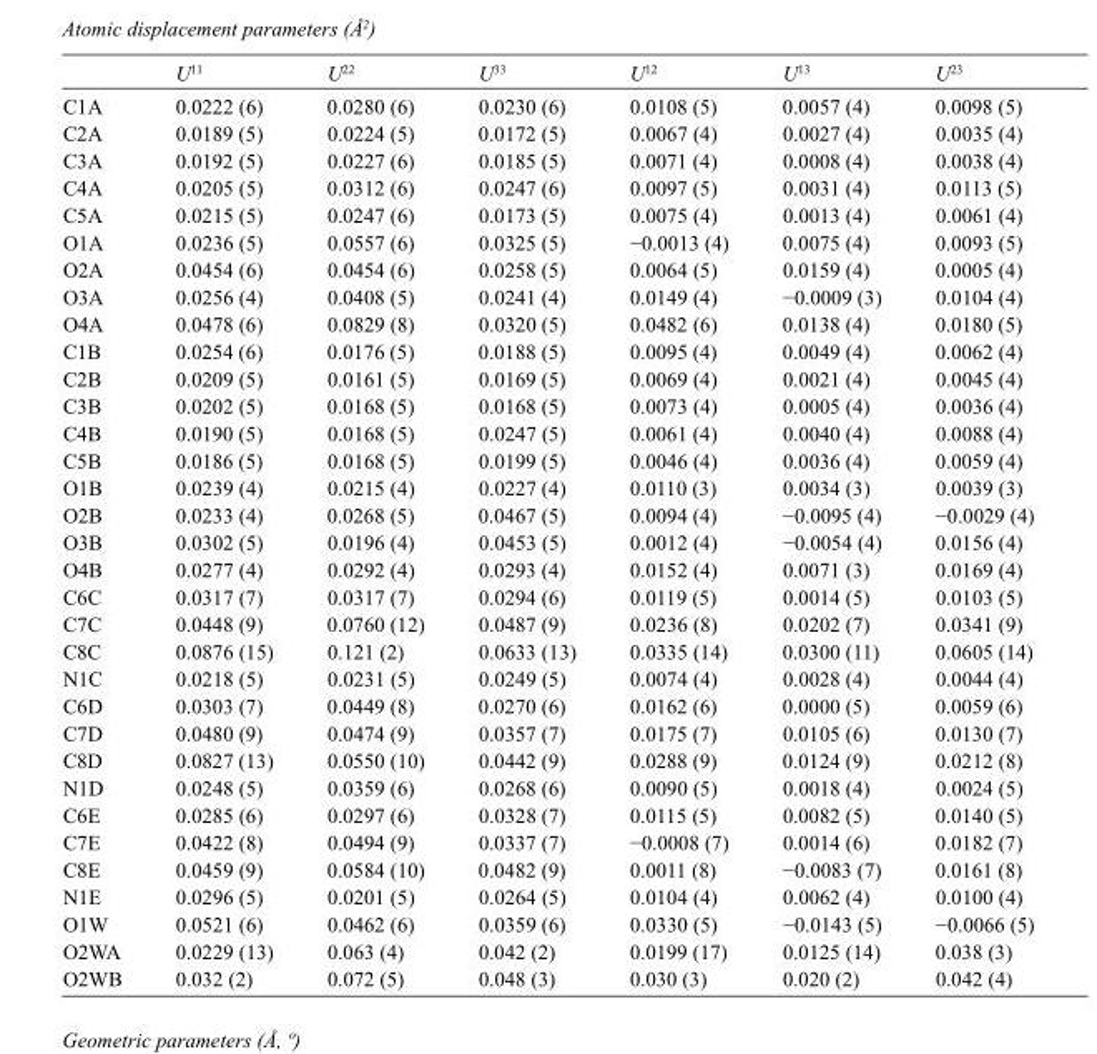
<table><thead><tr><td></td><td>U<sup>11</sup></td><td>U<sup>22</sup></td><td>U<sup>33</sup></td><td>U<sup>12</sup></td><td>U<sup>13</sup></td><td>U<sup>23</sup></td></tr></thead><tbody><tr><td>C1A</td><td>0.0222 (6)</td><td>0.0280 (6)</td><td>0.0230 (6)</td><td>0.0108 (5)</td><td>0.0057 (4)</td><td>0.0098 (5)</td></tr><tr><td>C2A</td><td>0.0189 (5)</td><td>0.0224 (5)</td><td>0.0172 (5)</td><td>0.0067 (4)</td><td>0.0027 (4)</td><td>0.0035 (4)</td></tr><tr><td>C3A</td><td>0.0192 (5)</td><td>0.0227 (6)</td><td>0.0185 (5)</td><td>0.0071 (4)</td><td>0.0008 (4)</td><td>0.0038 (4)</td></tr><tr><td>C4A</td><td>0.0205 (5)</td><td>0.0312 (6)</td><td>0.0247 (6)</td><td>0.0097 (5)</td><td>0.0031 (4)</td><td>0.0113 (5)</td></tr><tr><td>C5A</td><td>0.0215 (5)</td><td>0.0247 (6)</td><td>0.0173 (5)</td><td>0.0075 (4)</td><td>0.0013 (4)</td><td>0.0061 (4)</td></tr><tr><td>O1A</td><td>0.0236 (5)</td><td>0.0557 (6)</td><td>0.0325 (5)</td><td>−0.0013 (4)</td><td>0.0075 (4)</td><td>0.0093 (5)</td></tr><tr><td>O2A</td><td>0.0454 (6)</td><td>0.0454 (6)</td><td>0.0258 (5)</td><td>0.0064 (5)</td><td>0.0159 (4)</td><td>0.0005 (4)</td></tr><tr><td>O3A</td><td>0.0256 (4)</td><td>0.0408 (5)</td><td>0.0241 (4)</td><td>0.0149 (4)</td><td>−0.0009 (3)</td><td>0.0104 (4)</td></tr><tr><td>O4A</td><td>0.0478 (6)</td><td>0.0829 (8)</td><td>0.0320 (5)</td><td>0.0482 (6)</td><td>0.0138 (4)</td><td>0.0180 (5)</td></tr><tr><td>C1B</td><td>0.0254 (6)</td><td>0.0176 (5)</td><td>0.0188 (5)</td><td>0.0095 (4)</td><td>0.0049 (4)</td><td>0.0062 (4)</td></tr><tr><td>C2B</td><td>0.0209 (5)</td><td>0.0161 (5)</td><td>0.0169 (5)</td><td>0.0069 (4)</td><td>0.0021 (4)</td><td>0.0045 (4)</td></tr><tr><td>C3B</td><td>0.0202 (5)</td><td>0.0168 (5)</td><td>0.0168 (5)</td><td>0.0073 (4)</td><td>0.0005 (4)</td><td>0.0036 (4)</td></tr><tr><td>C4B</td><td>0.0190 (5)</td><td>0.0168 (5)</td><td>0.0247 (5)</td><td>0.0061 (4)</td><td>0.0040 (4)</td><td>0.0088 (4)</td></tr><tr><td>C5B</td><td>0.0186 (5)</td><td>0.0168 (5)</td><td>0.0199 (5)</td><td>0.0046 (4)</td><td>0.0036 (4)</td><td>0.0059 (4)</td></tr><tr><td>O1B</td><td>0.0239 (4)</td><td>0.0215 (4)</td><td>0.0227 (4)</td><td>0.0110 (3)</td><td>0.0034 (3)</td><td>0.0039 (3)</td></tr><tr><td>O2B</td><td>0.0233 (4)</td><td>0.0268 (5)</td><td>0.0467 (5)</td><td>0.0094 (4)</td><td>−0.0095 (4)</td><td>−0.0029 (4)</td></tr><tr><td>O3B</td><td>0.0302 (5)</td><td>0.0196 (4)</td><td>0.0453 (5)</td><td>0.0012 (4)</td><td>−0.0054 (4)</td><td>0.0156 (4)</td></tr><tr><td>O4B</td><td>0.0277 (4)</td><td>0.0292 (4)</td><td>0.0293 (4)</td><td>0.0152 (4)</td><td>0.0071 (3)</td><td>0.0169 (4)</td></tr><tr><td>C6C</td><td>0.0317 (7)</td><td>0.0317 (7)</td><td>0.0294 (6)</td><td>0.0119 (5)</td><td>0.0014 (5)</td><td>0.0103 (5)</td></tr><tr><td>C7C</td><td>0.0448 (9)</td><td>0.0760 (12)</td><td>0.0487 (9)</td><td>0.0236 (8)</td><td>0.0202 (7)</td><td>0.0341 (9)</td></tr><tr><td>C8C</td><td>0.0876 (15)</td><td>0.121 (2)</td><td>0.0633 (13)</td><td>0.0335 (14)</td><td>0.0300 (11)</td><td>0.0605 (14)</td></tr><tr><td>N1C</td><td>0.0218 (5)</td><td>0.0231 (5)</td><td>0.0249 (5)</td><td>0.0074 (4)</td><td>0.0028 (4)</td><td>0.0044 (4)</td></tr><tr><td>C6D</td><td>0.0303 (7)</td><td>0.0449 (8)</td><td>0.0270 (6)</td><td>0.0162 (6)</td><td>0.0000 (5)</td><td>0.0059 (6)</td></tr><tr><td>C7D</td><td>0.0480 (9)</td><td>0.0474 (9)</td><td>0.0357 (7)</td><td>0.0175 (7)</td><td>0.0105 (6)</td><td>0.0130 (7)</td></tr><tr><td>C8D</td><td>0.0827 (13)</td><td>0.0550 (10)</td><td>0.0442 (9)</td><td>0.0288 (9)</td><td>0.0124 (9)</td><td>0.0212 (8)</td></tr><tr><td>N1D</td><td>0.0248 (5)</td><td>0.0359 (6)</td><td>0.0268 (6)</td><td>0.0090 (5)</td><td>0.0018 (4)</td><td>0.0024 (5)</td></tr><tr><td>C6E</td><td>0.0285 (6)</td><td>0.0297 (6)</td><td>0.0328 (7)</td><td>0.0115 (5)</td><td>0.0082 (5)</td><td>0.0140 (5)</td></tr><tr><td>C7E</td><td>0.0422 (8)</td><td>0.0494 (9)</td><td>0.0337 (7)</td><td>−0.0008 (7)</td><td>0.0014 (6)</td><td>0.0182 (7)</td></tr><tr><td>C8E</td><td>0.0459 (9)</td><td>0.0584 (10)</td><td>0.0482 (9)</td><td>0.0011 (8)</td><td>−0.0083 (7)</td><td>0.0161 (8)</td></tr><tr><td>N1E</td><td>0.0296 (5)</td><td>0.0201 (5)</td><td>0.0264 (5)</td><td>0.0104 (4)</td><td>0.0062 (4)</td><td>0.0100 (4)</td></tr><tr><td>O1W</td><td>0.0521 (6)</td><td>0.0462 (6)</td><td>0.0359 (6)</td><td>0.0330 (5)</td><td>−0.0143 (5)</td><td>−0.0066 (5)</td></tr><tr><td>O2WA</td><td>0.0229 (13)</td><td>0.063 (4)</td><td>0.042 (2)</td><td>0.0199 (17)</td><td>0.0125 (14)</td><td>0.038 (3)</td></tr><tr><td>O2WB</td><td>0.032 (2)</td><td>0.072 (5)</td><td>0.048 (3)</td><td>0.030 (3)</td><td>0.020 (2)</td><td>0.042 (4)</td></tr></tbody></table>